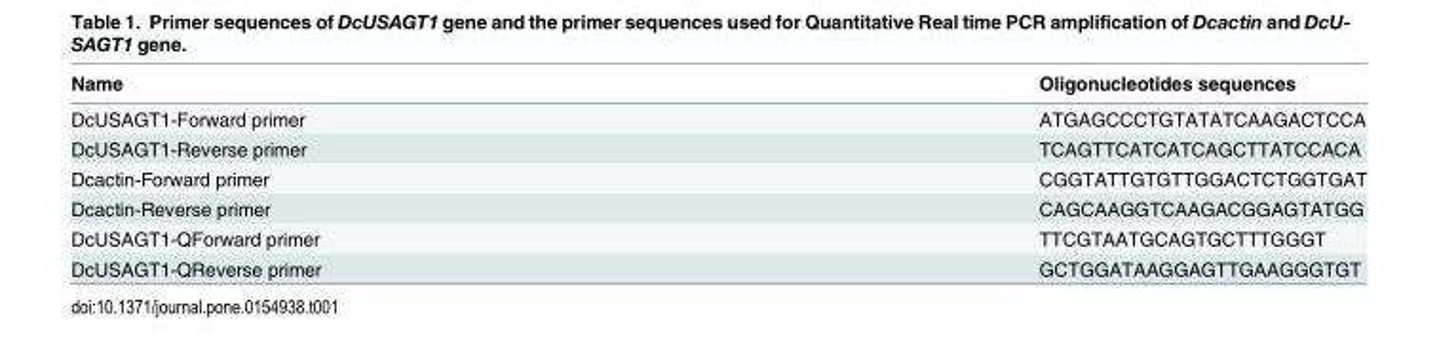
<table><thead><tr><td>Name</td><td>Oligonucleotides sequences</td></tr></thead><tbody><tr><td>DcUSAGT1-Forward primer</td><td>ATGAGCCCTGTATATCAAGACTCCA</td></tr><tr><td>DcUSAGT1-Reverse primer</td><td>TCAGTTCATCATCAGCTTATCCACA</td></tr><tr><td>Dcactin-Forward primer</td><td>CGGTATTGTGTTGGACTCTGGTGAT</td></tr><tr><td>Dcactin-Reverse primer</td><td>CAGCAAGGTCAAGACGGAGTATGG</td></tr><tr><td>DcUSAGT1-QForward primer</td><td>TTCGTAATGCAGTGCTTTGGGT</td></tr><tr><td>DcUSAGT1-QReverse primer</td><td>GCTGGATAAGGAGTTGAAGGGTGT</td></tr></tbody></table>